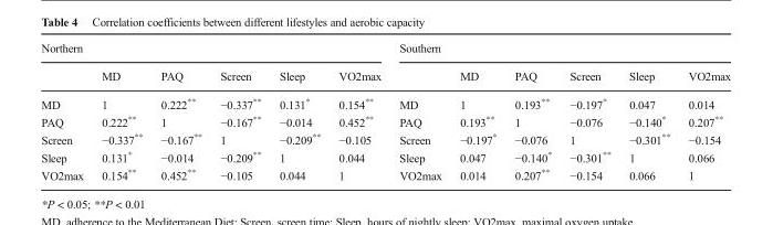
<table><thead><tr><td colspan="6">Northern</td><td colspan="6">Southern</td></tr><tr><td></td><td>MD</td><td>PAQ</td><td>Screen</td><td>Sleep</td><td>VO2max</td><td></td><td>MD</td><td>PAQ</td><td>Screen</td><td>Sleep</td><td>VO2max</td></tr></thead><tbody><tr><td>MD</td><td>1</td><td>0.222**</td><td>−0.337**</td><td>0.131*</td><td>0.154**</td><td>MD</td><td>1</td><td>0.193**</td><td>−0.197*</td><td>0.047</td><td>0.014</td></tr><tr><td>PAQ</td><td>0.222**</td><td>1</td><td>−0.167**</td><td>−0.014</td><td>0.452**</td><td>PAQ</td><td>0.193**</td><td>1</td><td>−0.076</td><td>−0.140*</td><td>0.207**</td></tr><tr><td>Screen</td><td>−0.337**</td><td>−0.167**</td><td>1</td><td>−0.209**</td><td>−0.105</td><td>Screen</td><td>−0.197*</td><td>−0.076</td><td>1</td><td>−0.301**</td><td>−0.154</td></tr><tr><td>Sleep</td><td>0.131*</td><td>−0.014</td><td>−0.209**</td><td>1</td><td>0.044</td><td>Sleep</td><td>0.047</td><td>−0.140*</td><td>−0.301**</td><td>1</td><td>0.066</td></tr><tr><td>VO2max</td><td>0.154**</td><td>0.452**</td><td>−0.105</td><td>0.044</td><td>1</td><td>VO2max</td><td>0.014</td><td>0.207**</td><td>−0.154</td><td>0.066</td><td>1</td></tr></tbody></table>